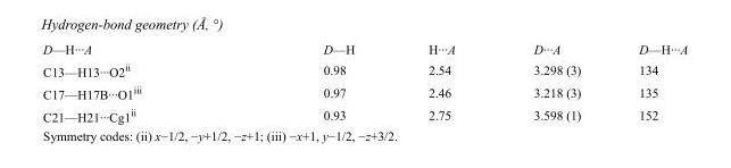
<table><tbody><tr><td>D—H···A</td><td>D—H</td><td>H···A</td><td>D···A</td><td>D—H···A</td></tr><tr><td>C13—H13···O2<sup>ii</sup></td><td>0.98</td><td>2.54</td><td>3.298 (3)</td><td>134</td></tr><tr><td>C17—H17B···O1<sup>iii</sup></td><td>0.97</td><td>2.46</td><td>3.218 (3)</td><td>135</td></tr><tr><td>C21—H21···Cg1<sup>ii</sup></td><td>0.93</td><td>2.75</td><td>3.598 (1)</td><td>152</td></tr></tbody></table>